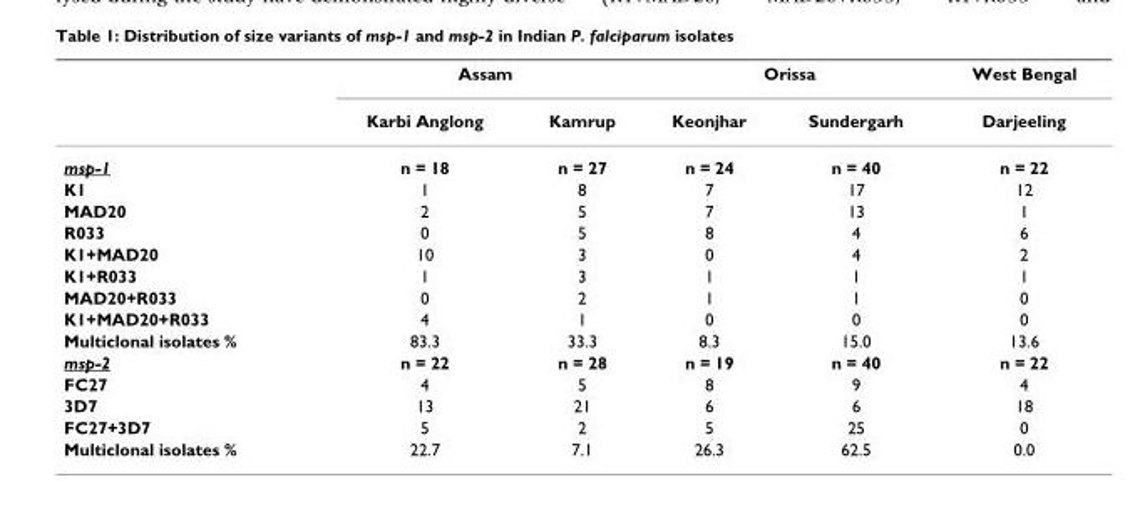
<table><thead><tr><td rowspan="2"></td><td colspan="2">Assam</td><td colspan="2">Orissa</td><td rowspan="2">West Bengal Darjeeling</td></tr><tr><td>Karbi Anglong</td><td>Kamrup</td><td>Keonjhar</td><td>Sundergarh</td></tr></thead><tbody><tr><td>msp-1</td><td>n = 18</td><td>n = 27</td><td>n = 24</td><td>n = 40</td><td>n = 22</td></tr><tr><td>K1</td><td>1</td><td>8</td><td>7</td><td>17</td><td>12</td></tr><tr><td>MAD20</td><td>2</td><td>5</td><td>7</td><td>13</td><td>1</td></tr><tr><td>R033</td><td>0</td><td>5</td><td>8</td><td>4</td><td>6</td></tr><tr><td>K1+MAD20</td><td>10</td><td>3</td><td>0</td><td>4</td><td>2</td></tr><tr><td>K1+R033</td><td>1</td><td>3</td><td>1</td><td>1</td><td>1</td></tr><tr><td>MAD20+R033</td><td>0</td><td>2</td><td>1</td><td>1</td><td>0</td></tr><tr><td>K1+MAD20+R033</td><td>4</td><td>1</td><td>0</td><td>0</td><td>0</td></tr><tr><td>Multiclonal isolates %</td><td>83.3</td><td>33.3</td><td>8.3</td><td>15.0</td><td>13.6</td></tr><tr><td>msp-2</td><td>n = 22</td><td>n = 28</td><td>n = 19</td><td>n = 40</td><td>n = 22</td></tr><tr><td>FC27</td><td>4</td><td>5</td><td>8</td><td>9</td><td>4</td></tr><tr><td>3D7</td><td>13</td><td>21</td><td>6</td><td>6</td><td>18</td></tr><tr><td>FC27+3D7</td><td>5</td><td>2</td><td>5</td><td>25</td><td>0</td></tr><tr><td>Multiclonal isolates %</td><td>22.7</td><td>7.1</td><td>26.3</td><td>62.5</td><td>0.0</td></tr></tbody></table>